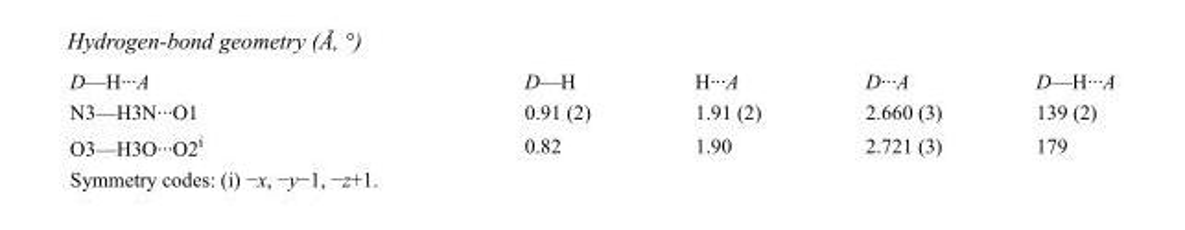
<table><tbody><tr><td>D—H···A</td><td>D—H</td><td>H···A</td><td>D···A</td><td>D—H···A</td></tr><tr><td>N3—H3N···O1</td><td>0.91 (2)</td><td>1.91 (2)</td><td>2.660 (3)</td><td>139 (2)</td></tr><tr><td>O3—H3O···O2<sup>i</sup></td><td>0.82</td><td>1.90</td><td>2.721 (3)</td><td>179</td></tr></tbody></table>